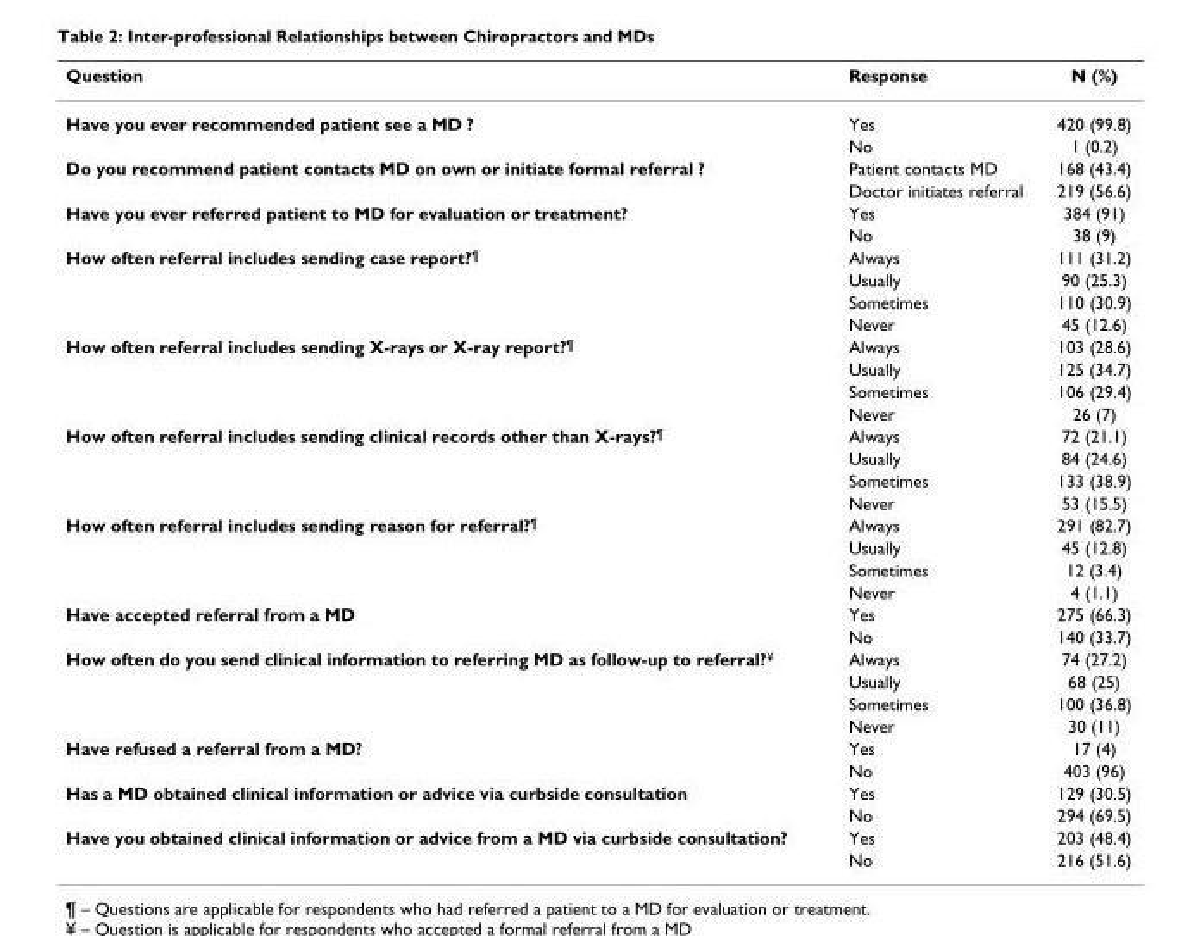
<table><thead><tr><td>Question</td><td>Response</td><td>N (%)</td></tr></thead><tbody><tr><td rowspan="2">Have you ever recommended patient see a MD ?</td><td>Yes</td><td>420 (99.8)</td></tr><tr><td>No</td><td>1 (0.2)</td></tr><tr><td rowspan="2">Do you recommend patient contacts MD on own or initiate formal referral ?</td><td>Patient contacts MD</td><td>168 (43.4)</td></tr><tr><td>Doctor initiates referral</td><td>219 (56.6)</td></tr><tr><td rowspan="2">Have you ever referred patient to MD for evaluation or treatment?</td><td>Yes</td><td>384 (91)</td></tr><tr><td>No</td><td>38 (9)</td></tr><tr><td rowspan="4">How often referral includes sending case report?<sup>¶</sup></td><td>Always</td><td>111 (31.2)</td></tr><tr><td>Usually</td><td>90 (25.3)</td></tr><tr><td>Sometimes</td><td>110 (30.9)</td></tr><tr><td>Never</td><td>45 (12.6)</td></tr><tr><td rowspan="4">How often referral includes sending X-rays or X-ray report?<sup>¶</sup></td><td>Always</td><td>103 (28.6)</td></tr><tr><td>Usually</td><td>125 (34.7)</td></tr><tr><td>Sometimes</td><td>106 (29.4)</td></tr><tr><td>Never</td><td>26 (7)</td></tr><tr><td rowspan="4">How often referral includes sending clinical records other than X-rays?<sup>¶</sup></td><td>Always</td><td>72 (21.1)</td></tr><tr><td>Usually</td><td>84 (24.6)</td></tr><tr><td>Sometimes</td><td>133 (38.9)</td></tr><tr><td>Never</td><td>53 (15.5)</td></tr><tr><td rowspan="4">How often referral includes sending reason for referral?<sup>¶</sup></td><td>Always</td><td>291 (82.7)</td></tr><tr><td>Usually</td><td>45 (12.8)</td></tr><tr><td>Sometimes</td><td>12 (3.4)</td></tr><tr><td>Never</td><td>4 (1.1)</td></tr><tr><td rowspan="2">Have accepted referral from a MD</td><td>Yes</td><td>275 (66.3)</td></tr><tr><td>No</td><td>140 (33.7)</td></tr><tr><td rowspan="4">How often do you send clinical information to referring MD as follow-up to referral?<sup>¥</sup></td><td>Always</td><td>74 (27.2)</td></tr><tr><td>Usually</td><td>68 (25)</td></tr><tr><td>Sometimes</td><td>100 (36.8)</td></tr><tr><td>Never</td><td>30 (11)</td></tr><tr><td rowspan="2">Have refused a referral from a MD?</td><td>Yes</td><td>17 (4)</td></tr><tr><td>No</td><td>403 (96)</td></tr><tr><td rowspan="2">Has a MD obtained clinical information or advice via curbside consultation</td><td>Yes</td><td>129 (30.5)</td></tr><tr><td>No</td><td>294 (69.5)</td></tr><tr><td rowspan="2">Have you obtained clinical information or advice from a MD via curbside consultation?</td><td>Yes</td><td>203 (48.4)</td></tr><tr><td>No</td><td>216 (51.6)</td></tr></tbody></table>